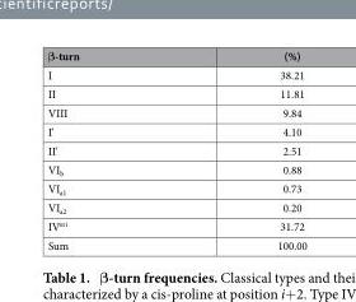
<table><thead><tr><td>β-turn</td><td>(%)</td></tr></thead><tbody><tr><td>I</td><td>38.21</td></tr><tr><td>II</td><td>11.81</td></tr><tr><td>VIII</td><td>9.84</td></tr><tr><td>I&#x27;</td><td>4.10</td></tr><tr><td>II&#x27;</td><td>2.51</td></tr><tr><td>VI<sub>b</sub></td><td>0.88</td></tr><tr><td>VI<sub>a1</sub></td><td>0.73</td></tr><tr><td>VI<sub>a2</sub></td><td>0.20</td></tr><tr><td>IV<sup>ori</sup></td><td>31.72</td></tr><tr><td>Sum</td><td>100.00</td></tr></tbody></table>